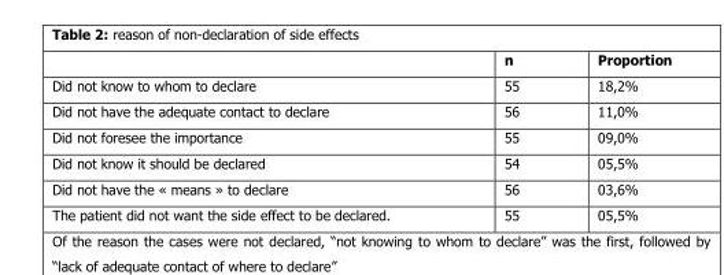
<table><thead><tr><td></td><td>n</td><td>Proportion</td></tr></thead><tbody><tr><td>Did not know to whom to declare</td><td>55</td><td>18,2%</td></tr><tr><td>Did not have the adequate contact to declare</td><td>56</td><td>11,0%</td></tr><tr><td>Did not foresee the importance</td><td>55</td><td>09,0%</td></tr><tr><td>Did not know it should be declared</td><td>54</td><td>05,5%</td></tr><tr><td>Did not have the « means » to declare</td><td>56</td><td>03,6%</td></tr><tr><td>The patient did not want the side effect to be declared.</td><td>55</td><td>05,5%</td></tr></tbody></table>